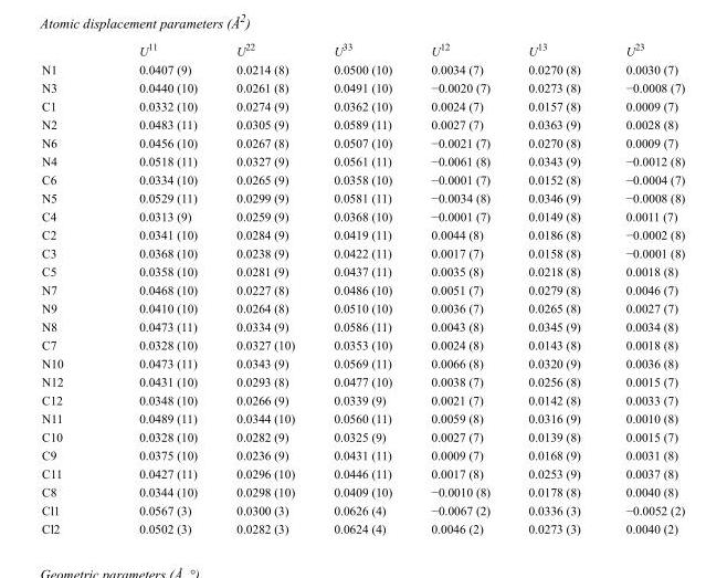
<table><thead><tr><td></td><td>U<sup>11</sup></td><td>U<sup>22</sup></td><td>U<sup>33</sup></td><td>U<sup>12</sup></td><td>U<sup>13</sup></td><td>U<sup>23</sup></td></tr></thead><tbody><tr><td>N1</td><td>0.0407 (9)</td><td>0.0214 (8)</td><td>0.0500 (10)</td><td>0.0034 (7)</td><td>0.0270 (8)</td><td>0.0030 (7)</td></tr><tr><td>N3</td><td>0.0440 (10)</td><td>0.0261 (8)</td><td>0.0491 (10)</td><td>−0.0020 (7)</td><td>0.0273 (8)</td><td>−0.0008 (7)</td></tr><tr><td>C1</td><td>0.0332 (10)</td><td>0.0274 (9)</td><td>0.0362 (10)</td><td>0.0024 (7)</td><td>0.0157 (8)</td><td>0.0009 (7)</td></tr><tr><td>N2</td><td>0.0483 (11)</td><td>0.0305 (9)</td><td>0.0589 (11)</td><td>0.0027 (7)</td><td>0.0363 (9)</td><td>0.0028 (8)</td></tr><tr><td>N6</td><td>0.0456 (10)</td><td>0.0267 (8)</td><td>0.0507 (10)</td><td>−0.0021 (7)</td><td>0.0270 (8)</td><td>0.0009 (7)</td></tr><tr><td>N4</td><td>0.0518 (11)</td><td>0.0327 (9)</td><td>0.0561 (11)</td><td>−0.0061 (8)</td><td>0.0343 (9)</td><td>−0.0012 (8)</td></tr><tr><td>C6</td><td>0.0334 (10)</td><td>0.0265 (9)</td><td>0.0358 (10)</td><td>−0.0001 (7)</td><td>0.0152 (8)</td><td>−0.0004 (7)</td></tr><tr><td>N5</td><td>0.0529 (11)</td><td>0.0299 (9)</td><td>0.0581 (11)</td><td>−0.0034 (8)</td><td>0.0346 (9)</td><td>−0.0008 (8)</td></tr><tr><td>C4</td><td>0.0313 (9)</td><td>0.0259 (9)</td><td>0.0368 (10)</td><td>−0.0001 (7)</td><td>0.0149 (8)</td><td>0.0011 (7)</td></tr><tr><td>C2</td><td>0.0341 (10)</td><td>0.0284 (9)</td><td>0.0419 (11)</td><td>0.0044 (8)</td><td>0.0186 (8)</td><td>−0.0002 (8)</td></tr><tr><td>C3</td><td>0.0368 (10)</td><td>0.0238 (9)</td><td>0.0422 (11)</td><td>0.0017 (7)</td><td>0.0158 (8)</td><td>−0.0001 (8)</td></tr><tr><td>C5</td><td>0.0358 (10)</td><td>0.0281 (9)</td><td>0.0437 (11)</td><td>0.0035 (8)</td><td>0.0218 (8)</td><td>0.0018 (8)</td></tr><tr><td>N7</td><td>0.0468 (10)</td><td>0.0227 (8)</td><td>0.0486 (10)</td><td>0.0051 (7)</td><td>0.0279 (8)</td><td>0.0046 (7)</td></tr><tr><td>N9</td><td>0.0410 (10)</td><td>0.0264 (8)</td><td>0.0510 (10)</td><td>0.0036 (7)</td><td>0.0265 (8)</td><td>0.0027 (7)</td></tr><tr><td>N8</td><td>0.0473 (11)</td><td>0.0334 (9)</td><td>0.0586 (11)</td><td>0.0043 (8)</td><td>0.0345 (9)</td><td>0.0034 (8)</td></tr><tr><td>C7</td><td>0.0328 (10)</td><td>0.0327 (10)</td><td>0.0353 (10)</td><td>0.0024 (8)</td><td>0.0143 (8)</td><td>0.0018 (8)</td></tr><tr><td>N10</td><td>0.0473 (11)</td><td>0.0343 (9)</td><td>0.0569 (11)</td><td>0.0066 (8)</td><td>0.0320 (9)</td><td>0.0036 (8)</td></tr><tr><td>N12</td><td>0.0431 (10)</td><td>0.0293 (8)</td><td>0.0477 (10)</td><td>0.0038 (7)</td><td>0.0256 (8)</td><td>0.0015 (7)</td></tr><tr><td>C12</td><td>0.0348 (10)</td><td>0.0266 (9)</td><td>0.0339 (9)</td><td>0.0021 (7)</td><td>0.0142 (8)</td><td>0.0033 (7)</td></tr><tr><td>N11</td><td>0.0489 (11)</td><td>0.0344 (10)</td><td>0.0560 (11)</td><td>0.0059 (8)</td><td>0.0316 (9)</td><td>0.0010 (8)</td></tr><tr><td>C10</td><td>0.0328 (10)</td><td>0.0282 (9)</td><td>0.0325 (9)</td><td>0.0027 (7)</td><td>0.0139 (8)</td><td>0.0015 (7)</td></tr><tr><td>C9</td><td>0.0375 (10)</td><td>0.0236 (9)</td><td>0.0431 (11)</td><td>0.0009 (7)</td><td>0.0168 (9)</td><td>0.0031 (8)</td></tr><tr><td>C11</td><td>0.0427 (11)</td><td>0.0296 (10)</td><td>0.0446 (11)</td><td>0.0017 (8)</td><td>0.0253 (9)</td><td>0.0037 (8)</td></tr><tr><td>C8</td><td>0.0344 (10)</td><td>0.0298 (10)</td><td>0.0409 (10)</td><td>−0.0010 (8)</td><td>0.0178 (8)</td><td>0.0040 (8)</td></tr><tr><td>Cl1</td><td>0.0567 (3)</td><td>0.0300 (3)</td><td>0.0626 (4)</td><td>−0.0067 (2)</td><td>0.0336 (3)</td><td>−0.0052 (2)</td></tr><tr><td>Cl2</td><td>0.0502 (3)</td><td>0.0282 (3)</td><td>0.0624 (4)</td><td>0.0046 (2)</td><td>0.0273 (3)</td><td>0.0040 (2)</td></tr></tbody></table>